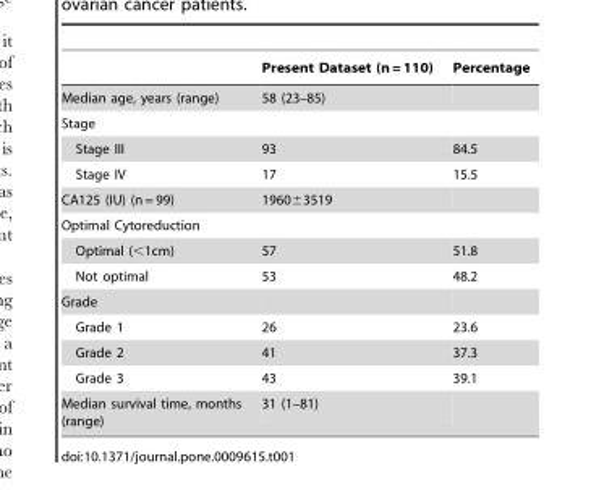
<table><thead><tr><td></td><td>Present Dataset (n = 110)</td><td>Percentage</td></tr></thead><tbody><tr><td>Median age, years (range)</td><td>58 (23–85)</td><td></td></tr><tr><td colspan="3">Stage</td></tr><tr><td>Stage III</td><td>93</td><td>84.5</td></tr><tr><td>Stage IV</td><td>17</td><td>15.5</td></tr><tr><td>CA125 (IU) (n = 99)</td><td>1960±3519</td><td></td></tr><tr><td colspan="3">Optimal Cytoreduction</td></tr><tr><td>Optimal (&lt;1cm)</td><td>57</td><td>51.8</td></tr><tr><td>Not optimal</td><td>53</td><td>48.2</td></tr><tr><td colspan="3">Grade</td></tr><tr><td>Grade 1</td><td>26</td><td>23.6</td></tr><tr><td>Grade 2</td><td>41</td><td>37.3</td></tr><tr><td>Grade 3</td><td>43</td><td>39.1</td></tr><tr><td>Median survival time, months (range)</td><td>31 (1–81)</td><td></td></tr></tbody></table>